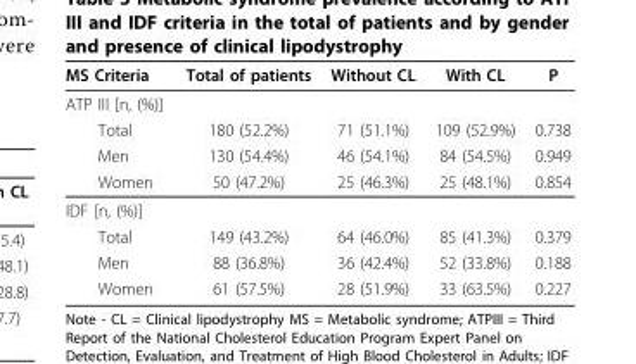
<table><thead><tr><td>MS Criteria</td><td>Total of patients</td><td>Without CL</td><td>With CL</td><td>P</td></tr></thead><tbody><tr><td colspan="5">ATP III [n, (%)]</td></tr><tr><td>Total</td><td>180 (52.2%)</td><td>71 (51.1%)</td><td>109 (52.9%)</td><td>0.738</td></tr><tr><td>Men</td><td>130 (54.4%)</td><td>46 (54.1%)</td><td>84 (54.5%)</td><td>0.949</td></tr><tr><td>Women</td><td>50 (47.2%)</td><td>25 (46.3%)</td><td>25 (48.1%)</td><td>0.854</td></tr><tr><td colspan="5">IDF [n, (%)]</td></tr><tr><td>Total</td><td>149 (43.2%)</td><td>64 (46.0%)</td><td>85 (41.3%)</td><td>0.379</td></tr><tr><td>Men</td><td>88 (36.8%)</td><td>36 (42.4%)</td><td>52 (33.8%)</td><td>0.188</td></tr><tr><td>Women</td><td>61 (57.5%)</td><td>28 (51.9%)</td><td>33 (63.5%)</td><td>0.227</td></tr></tbody></table>